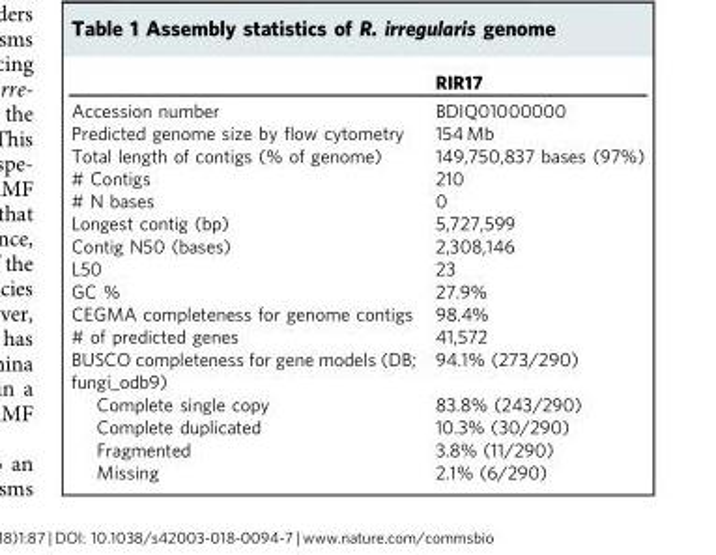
<table><thead><tr><td></td><td>RIR17</td></tr></thead><tbody><tr><td>Accession number</td><td>BDIQ01000000</td></tr><tr><td>Predicted genome size by flow cytometry</td><td>154 Mb</td></tr><tr><td>Total length of contigs (% of genome)</td><td>149,750,837 bases (97%)</td></tr><tr><td># Contigs</td><td>210</td></tr><tr><td># N bases</td><td>0</td></tr><tr><td>Longest contig (bp)</td><td>5,727,599</td></tr><tr><td>Contig N50 (bases)</td><td>2,308,146</td></tr><tr><td>L50</td><td>23</td></tr><tr><td>GC %</td><td>27.9%</td></tr><tr><td>CEGMA completeness for genome contigs</td><td>98.4%</td></tr><tr><td># of predicted genes</td><td>41,572</td></tr><tr><td>BUSCO completeness for gene models (DB; fungi_odb9)</td><td>94.1% (273/290)</td></tr><tr><td>Complete single copy</td><td>83.8% (243/290)</td></tr><tr><td>Complete duplicated</td><td>10.3% (30/290)</td></tr><tr><td>Fragmented</td><td>3.8% (11/290)</td></tr><tr><td>Missing</td><td>2.1% (6/290)</td></tr></tbody></table>